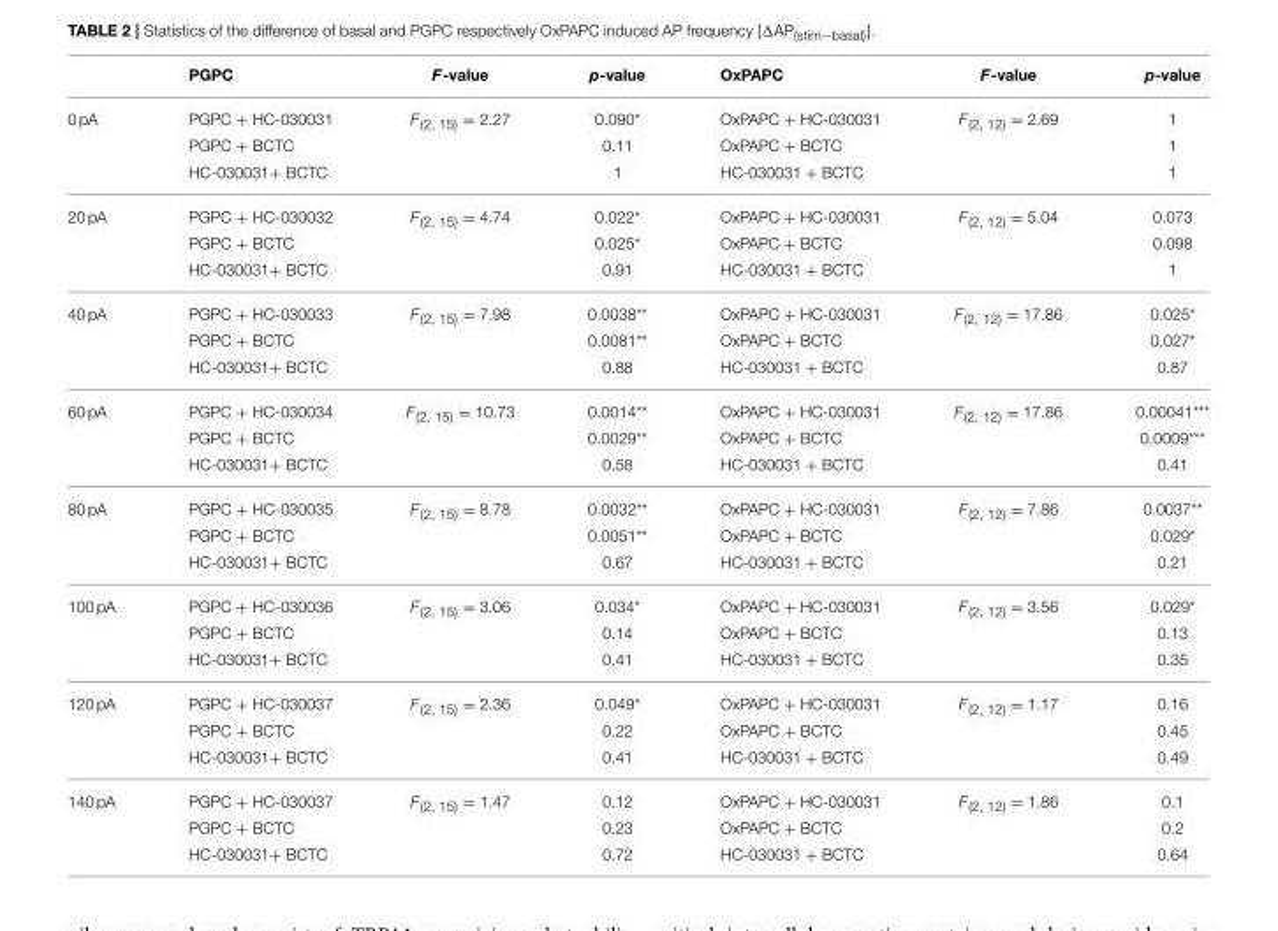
<table><thead><tr><td></td><td>PGPC</td><td>F-value</td><td>p-value</td><td>OxPAPC</td><td>F-value</td><td>p-value</td></tr></thead><tbody><tr><td rowspan="3">0 pA</td><td>PGPC + HC-030031</td><td>F<sub>(2, 15)</sub> = 2.27</td><td>0.090*</td><td>OxPAPC + HC-030031</td><td>F<sub>(2, 12)</sub> = 2.69</td><td>1</td></tr><tr><td>PGPC + BCTC</td><td></td><td>0.11</td><td>OxPAPC + BCTC</td><td></td><td>1</td></tr><tr><td>HC-030031+ BCTC</td><td></td><td>1</td><td>HC-030031 + BCTC</td><td></td><td>1</td></tr><tr><td rowspan="3">20 pA</td><td>PGPC + HC-030032</td><td>F<sub>(2, 15)</sub> = 4.74</td><td>0.022*</td><td>OxPAPC + HC-030031</td><td>F<sub>(2, 12)</sub> = 5.04</td><td>0.073</td></tr><tr><td>PGPC + BCTC</td><td></td><td>0.025*</td><td>OxPAPC + BCTC</td><td></td><td>0.098</td></tr><tr><td>HC-030031+ BCTC</td><td></td><td>0.91</td><td>HC-030031 + BCTC</td><td></td><td>1</td></tr><tr><td rowspan="3">40 pA</td><td>PGPC + HC-030033</td><td>F<sub>(2, 15)</sub> = 7.98</td><td>0.0038**</td><td>OxPAPC + HC-030031</td><td>F<sub>(2, 12)</sub> = 17.86</td><td>0.025*</td></tr><tr><td>PGPC + BCTC</td><td></td><td>0.0081**</td><td>OxPAPC + BCTC</td><td></td><td>0.027*</td></tr><tr><td>HC-030031+ BCTC</td><td></td><td>0.88</td><td>HC-030031 + BCTC</td><td></td><td>0.87</td></tr><tr><td rowspan="3">60 pA</td><td>PGPC + HC-030034</td><td>F<sub>(2, 15)</sub> = 10.73</td><td>0.0014**</td><td>OxPAPC + HC-030031</td><td>F<sub>(2, 12)</sub> = 17.86</td><td>0.00041***</td></tr><tr><td>PGPC + BCTC</td><td></td><td>0.0029**</td><td>OxPAPC + BCTC</td><td></td><td>0.0009***</td></tr><tr><td>HC-030031+ BCTC</td><td></td><td>0.58</td><td>HC-030031 + BCTC</td><td></td><td>0.41</td></tr><tr><td rowspan="3">80 pA</td><td>PGPC + HC-030035</td><td>F<sub>(2, 15)</sub> = 8.78</td><td>0.0032**</td><td>OxPAPC + HC-030031</td><td>F<sub>(2, 12)</sub> = 7.86</td><td>0.0037**</td></tr><tr><td>PGPC + BCTC</td><td></td><td>0.0051**</td><td>OxPAPC + BCTC</td><td></td><td>0.029*</td></tr><tr><td>HC-030031+ BCTC</td><td></td><td>0.67</td><td>HC-030031 + BCTC</td><td></td><td>0.21</td></tr><tr><td rowspan="3">100 pA</td><td>PGPC + HC-030036</td><td>F<sub>(2, 15)</sub> = 3.06</td><td>0.034*</td><td>OxPAPC + HC-030031</td><td>F<sub>(2, 12)</sub> = 3.56</td><td>0.029*</td></tr><tr><td>PGPC + BCTC</td><td></td><td>0.14</td><td>OxPAPC + BCTC</td><td></td><td>0.13</td></tr><tr><td>HC-030031+ BCTC</td><td></td><td>0.41</td><td>HC-030031 + BCTC</td><td></td><td>0.35</td></tr><tr><td rowspan="3">120 pA</td><td>PGPC + HC-030037</td><td>F<sub>(2, 15)</sub> = 2.36</td><td>0.049*</td><td>OxPAPC + HC-030031</td><td>F<sub>(2, 12)</sub> = 1.17</td><td>0.16</td></tr><tr><td>PGPC + BCTC</td><td></td><td>0.22</td><td>OxPAPC + BCTC</td><td></td><td>0.45</td></tr><tr><td>HC-030031+ BCTC</td><td></td><td>0.41</td><td>HC-030031 + BCTC</td><td></td><td>0.49</td></tr><tr><td rowspan="3">140 pA</td><td>PGPC + HC-030037</td><td>F<sub>(2, 15)</sub> = 1.47</td><td>0.12</td><td>OxPAPC + HC-030031</td><td>F<sub>(2, 12)</sub> = 1.86</td><td>0.1</td></tr><tr><td>PGPC + BCTC</td><td></td><td>0.23</td><td>OxPAPC + BCTC</td><td></td><td>0.2</td></tr><tr><td>HC-030031+ BCTC</td><td></td><td>0.72</td><td>HC-030031 + BCTC</td><td></td><td>0.64</td></tr></tbody></table>